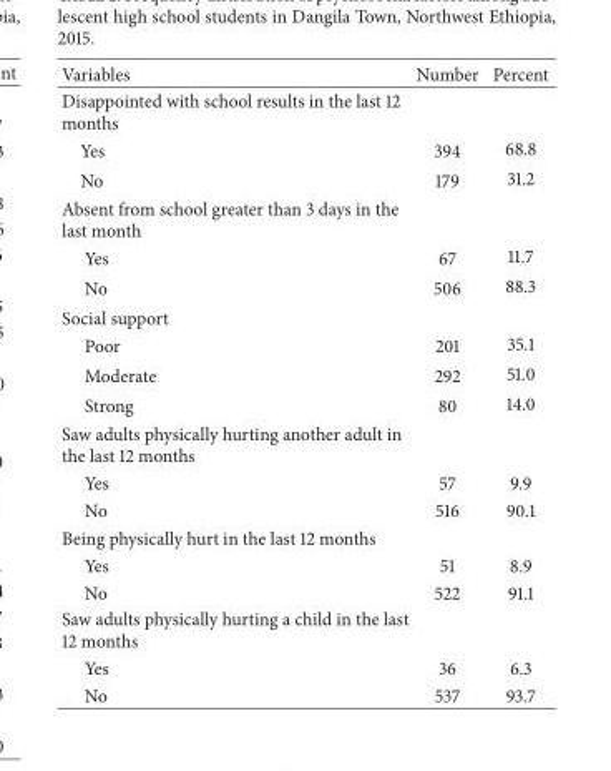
<table><thead><tr><td>Variables</td><td>Number</td><td>Percent</td></tr></thead><tbody><tr><td colspan="3">Disappointed with school results in the last 12 months</td></tr><tr><td>Yes</td><td>394</td><td>68.8</td></tr><tr><td>No</td><td>179</td><td>31.2</td></tr><tr><td colspan="3">Absent from school greater than 3 days in the last month</td></tr><tr><td>Yes</td><td>67</td><td>11.7</td></tr><tr><td>No</td><td>506</td><td>88.3</td></tr><tr><td colspan="3">Social support</td></tr><tr><td>Poor</td><td>201</td><td>35.1</td></tr><tr><td>Moderate</td><td>292</td><td>51.0</td></tr><tr><td>Strong</td><td>80</td><td>14.0</td></tr><tr><td colspan="3">Saw adults physically hurting another adult in the last 12 months</td></tr><tr><td>Yes</td><td>57</td><td>9.9</td></tr><tr><td>No</td><td>516</td><td>90.1</td></tr><tr><td colspan="3">Being physically hurt in the last 12 months</td></tr><tr><td>Yes</td><td>51</td><td>8.9</td></tr><tr><td>No</td><td>522</td><td>91.1</td></tr><tr><td colspan="3">Saw adults physically hurting a child in the last 12 months</td></tr><tr><td>Yes</td><td>36</td><td>6.3</td></tr><tr><td>No</td><td>537</td><td>93.7</td></tr></tbody></table>